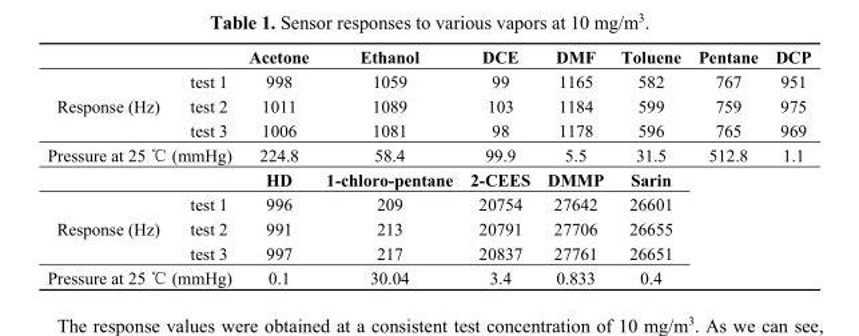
<table><thead><tr><td></td><td></td><td>Acetone</td><td>Ethanol</td><td>DCE</td><td>DMF</td><td>Toluene</td><td>Pentane</td><td>DCP</td></tr></thead><tbody><tr><td rowspan="3">Response (Hz)</td><td>test 1</td><td>998</td><td>1059</td><td>99</td><td>1165</td><td>582</td><td>767</td><td>951</td></tr><tr><td>test 2</td><td>1011</td><td>1089</td><td>103</td><td>1184</td><td>599</td><td>759</td><td>975</td></tr><tr><td>test 3</td><td>1006</td><td>1081</td><td>98</td><td>1178</td><td>596</td><td>765</td><td>969</td></tr><tr><td rowspan="2" colspan="2">Pressure at 25 ℃ (mmHg)</td><td>224.8</td><td>58.4</td><td>99.9</td><td>5.5</td><td>31.5</td><td>512.8</td><td>1.1</td></tr><tr><td>HD</td><td>1-chloro-pentane</td><td>2-CEES</td><td>DMMP</td><td>Sarin</td><td rowspan="5" colspan="2"></td></tr><tr><td rowspan="3">Response (Hz)</td><td>test 1</td><td>996</td><td>209</td><td>20754</td><td>27642</td><td>26601</td></tr><tr><td>test 2</td><td>991</td><td>213</td><td>20791</td><td>27706</td><td>26655</td></tr><tr><td>test 3</td><td>997</td><td>217</td><td>20837</td><td>27761</td><td>26651</td></tr><tr><td colspan="2">Pressure at 25 ℃ (mmHg)</td><td>0.1</td><td>30.04</td><td>3.4</td><td>0.833</td><td>0.4</td></tr></tbody></table>